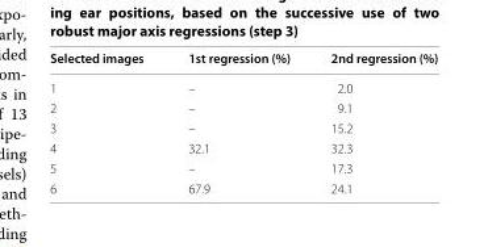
<table><thead><tr><td>Selected images</td><td>1st regression (%)</td><td>2nd regression (%)</td></tr></thead><tbody><tr><td>1</td><td>–</td><td>2.0</td></tr><tr><td>2</td><td>–</td><td>9.1</td></tr><tr><td>3</td><td>–</td><td>15.2</td></tr><tr><td>4</td><td>32.1</td><td>32.3</td></tr><tr><td>5</td><td>–</td><td>17.3</td></tr><tr><td>6</td><td>67.9</td><td>24.1</td></tr></tbody></table>